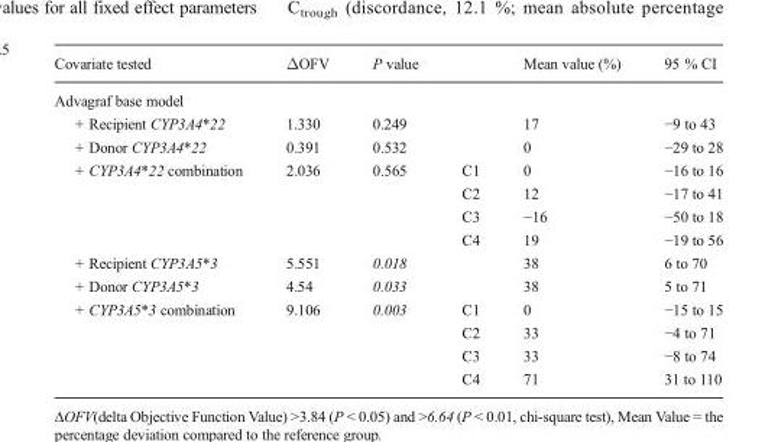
<table><thead><tr><td>Covariate tested</td><td>ΔOFV</td><td>P value</td><td></td><td>Mean value (%)</td><td>95 % CI</td></tr></thead><tbody><tr><td colspan="6">Advagraf base model</td></tr><tr><td>+ Recipient CYP3A4*22</td><td>1.330</td><td>0.249</td><td></td><td>17</td><td>−9 to 43</td></tr><tr><td>+ Donor CYP3A4*22</td><td>0.391</td><td>0.532</td><td></td><td>0</td><td>−29 to 28</td></tr><tr><td rowspan="4">+ CYP3A4*22 combination</td><td rowspan="4">2.036</td><td rowspan="4">0.565</td><td>C1</td><td>0</td><td>−16 to 16</td></tr><tr><td>C2</td><td>12</td><td>−17 to 41</td></tr><tr><td>C3</td><td>−16</td><td>−50 to 18</td></tr><tr><td>C4</td><td>19</td><td>−19 to 56</td></tr><tr><td>+ Recipient CYP3A5*3</td><td>5.551</td><td>0.018</td><td></td><td>38</td><td>6 to 70</td></tr><tr><td>+ Donor CYP3A5*3</td><td>4.54</td><td>0.033</td><td></td><td>38</td><td>5 to 71</td></tr><tr><td rowspan="4">+ CYP3A5*3 combination</td><td rowspan="4">9.106</td><td rowspan="4">0.003</td><td>C1</td><td>0</td><td>−15 to 15</td></tr><tr><td>C2</td><td>33</td><td>−4 to 71</td></tr><tr><td>C3</td><td>33</td><td>−8 to 74</td></tr><tr><td>C4</td><td>71</td><td>31 to 110</td></tr></tbody></table>